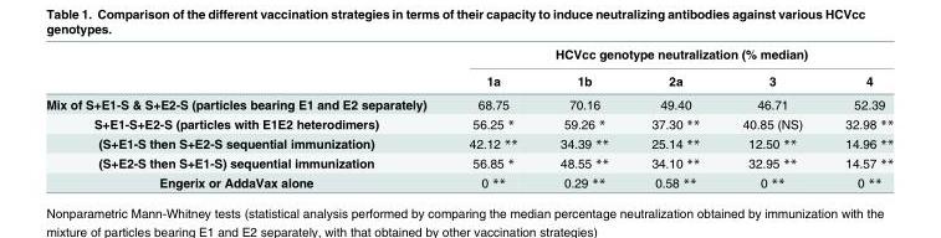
<table><thead><tr><td rowspan="2"></td><td colspan="5">HCVcc genotype neutralization (% median)</td></tr><tr><td>1a</td><td>1b</td><td>2a</td><td>3</td><td>4</td></tr></thead><tbody><tr><td>Mix of S+E1-S &amp; S+E2-S (particles bearing E1 and E2 separately)</td><td>68.75</td><td>70.16</td><td>49.40</td><td>46.71</td><td>52.39</td></tr><tr><td>S+E1-S+E2-S (particles with E1E2 heterodimers)</td><td>56.25 *</td><td>59.26 *</td><td>37.30 **</td><td>40.85 (NS)</td><td>32.98 **</td></tr><tr><td>(S+E1-S then S+E2-S sequential immunization)</td><td>42.12 **</td><td>34.39 **</td><td>25.14 **</td><td>12.50 **</td><td>14.96 **</td></tr><tr><td>(S+E2-S then S+E1-S) sequential immunization</td><td>56.85 *</td><td>48.55 **</td><td>34.10 **</td><td>32.95 **</td><td>14.57 **</td></tr><tr><td>Engerix or AddaVax alone</td><td>0 **</td><td>0.29 **</td><td>0.58 **</td><td>0 **</td><td>0 **</td></tr></tbody></table>